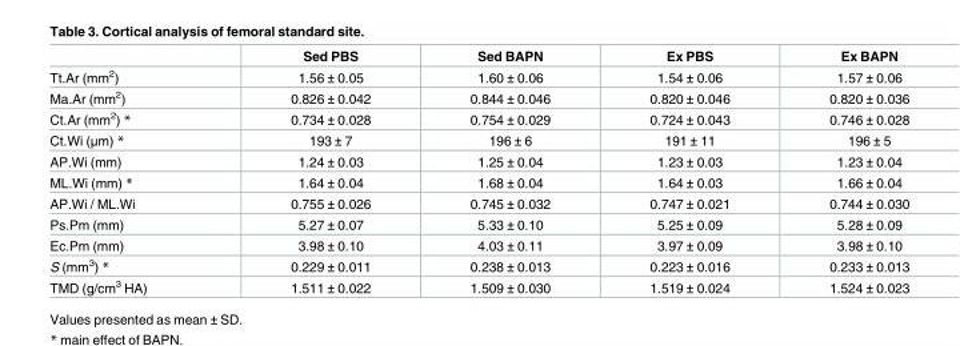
<table><thead><tr><td></td><td>Sed PBS</td><td>Sed BAPN</td><td>Ex PBS</td><td>Ex BAPN</td></tr></thead><tbody><tr><td>Tt.Ar (mm<sup>2</sup>)</td><td>1.56 ± 0.05</td><td>1.60 ± 0.06</td><td>1.54 ± 0.06</td><td>1.57 ± 0.06</td></tr><tr><td>Ma.Ar (mm<sup>2</sup>)</td><td>0.826 ± 0.042</td><td>0.844 ± 0.046</td><td>0.820 ± 0.046</td><td>0.820 ± 0.036</td></tr><tr><td>Ct.Ar (mm<sup>2</sup>) *</td><td>0.734 ± 0.028</td><td>0.754 ± 0.029</td><td>0.724 ± 0.043</td><td>0.746 ± 0.028</td></tr><tr><td>Ct.Wi (μm) *</td><td>193 ± 7</td><td>196 ± 6</td><td>191 ± 11</td><td>196 ± 5</td></tr><tr><td>AP.Wi (mm)</td><td>1.24 ± 0.03</td><td>1.25 ± 0.04</td><td>1.23 ± 0.03</td><td>1.23 ± 0.04</td></tr><tr><td>ML.Wi (mm) *</td><td>1.64 ± 0.04</td><td>1.68 ± 0.04</td><td>1.64 ± 0.03</td><td>1.66 ± 0.04</td></tr><tr><td>AP.Wi / ML.Wi</td><td>0.755 ± 0.026</td><td>0.745 ± 0.032</td><td>0.747 ± 0.021</td><td>0.744 ± 0.030</td></tr><tr><td>Ps.Pm (mm)</td><td>5.27 ± 0.07</td><td>5.33 ± 0.10</td><td>5.25 ± 0.09</td><td>5.28 ± 0.09</td></tr><tr><td>Ec.Pm (mm)</td><td>3.98 ± 0.10</td><td>4.03 ± 0.11</td><td>3.97 ± 0.09</td><td>3.98 ± 0.10</td></tr><tr><td>S (mm<sup>3</sup>) *</td><td>0.229 ± 0.011</td><td>0.238 ± 0.013</td><td>0.223 ± 0.016</td><td>0.233 ± 0.013</td></tr><tr><td>TMD (g/cm<sup>3</sup> HA)</td><td>1.511 ± 0.022</td><td>1.509 ± 0.030</td><td>1.519 ± 0.024</td><td>1.524 ± 0.023</td></tr></tbody></table>